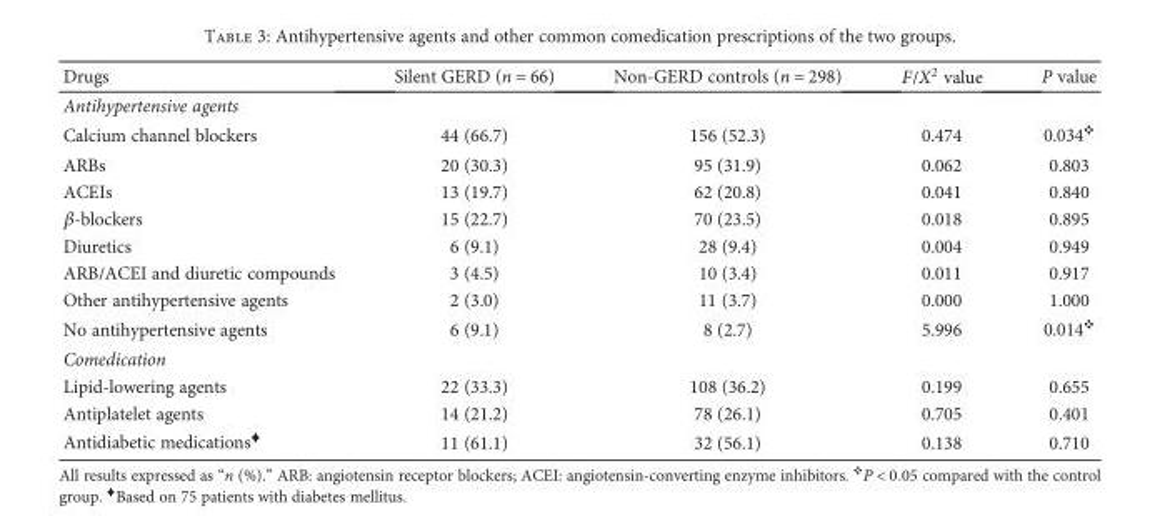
<table><thead><tr><td>Drugs</td><td>Silent GERD (n = 66)</td><td>Non-GERD controls (n = 298)</td><td>F/X<sup>2</sup> value</td><td>P value</td></tr></thead><tbody><tr><td colspan="5">Antihypertensive agents</td></tr><tr><td>Calcium channel blockers</td><td>44 (66.7)</td><td>156 (52.3)</td><td>0.474</td><td>0.034<sup>❖</sup></td></tr><tr><td>ARBs</td><td>20 (30.3)</td><td>95 (31.9)</td><td>0.062</td><td>0.803</td></tr><tr><td>ACEIs</td><td>13 (19.7)</td><td>62 (20.8)</td><td>0.041</td><td>0.840</td></tr><tr><td>β-blockers</td><td>15 (22.7)</td><td>70 (23.5)</td><td>0.018</td><td>0.895</td></tr><tr><td>Diuretics</td><td>6 (9.1)</td><td>28 (9.4)</td><td>0.004</td><td>0.949</td></tr><tr><td>ARB/ACEI and diuretic compounds</td><td>3 (4.5)</td><td>10 (3.4)</td><td>0.011</td><td>0.917</td></tr><tr><td>Other antihypertensive agents</td><td>2 (3.0)</td><td>11 (3.7)</td><td>0.000</td><td>1.000</td></tr><tr><td>No antihypertensive agents</td><td>6 (9.1)</td><td>8 (2.7)</td><td>5.996</td><td>0.014<sup>❖</sup></td></tr><tr><td colspan="5">Comedication</td></tr><tr><td>Lipid-lowering agents</td><td>22 (33.3)</td><td>108 (36.2)</td><td>0.199</td><td>0.655</td></tr><tr><td>Antiplatelet agents</td><td>14 (21.2)</td><td>78 (26.1)</td><td>0.705</td><td>0.401</td></tr><tr><td>Antidiabetic medications<sup>♦</sup></td><td>11 (61.1)</td><td>32 (56.1)</td><td>0.138</td><td>0.710</td></tr></tbody></table>